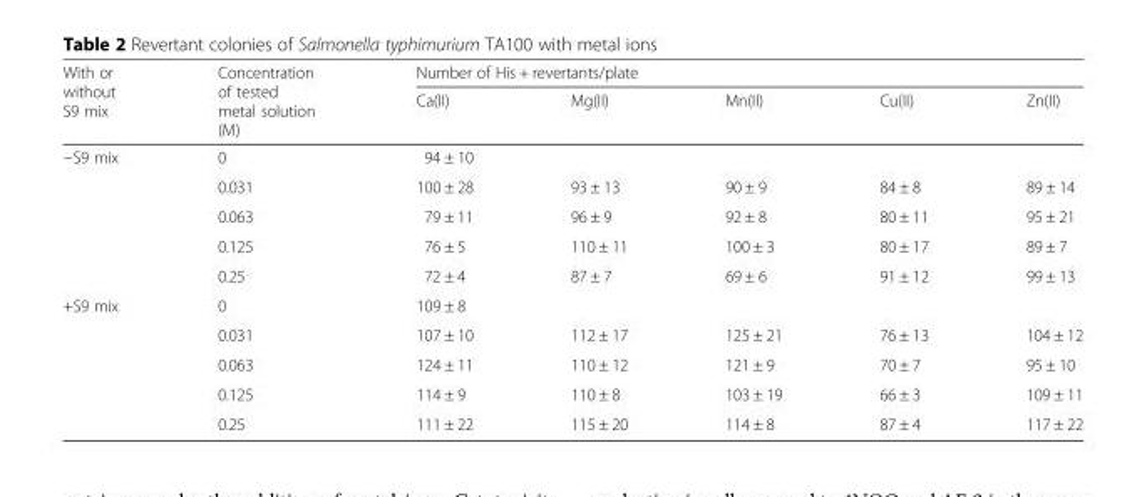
<table><thead><tr><td rowspan="2">With or without S9 mix</td><td rowspan="2">Concentration of tested metal solution (M)</td><td colspan="5">Number of His + revertants/plate</td></tr><tr><td>Ca(II)</td><td>Mg(II)</td><td>Mn(II)</td><td>Cu(II)</td><td>Zn(II)</td></tr></thead><tbody><tr><td rowspan="5">−S9 mix</td><td>0</td><td>94 ± 10</td><td></td><td></td><td></td><td></td></tr><tr><td>0.031</td><td>100 ± 28</td><td>93 ± 13</td><td>90 ± 9</td><td>84 ± 8</td><td>89 ± 14</td></tr><tr><td>0.063</td><td>79 ± 11</td><td>96 ± 9</td><td>92 ± 8</td><td>80 ± 11</td><td>95 ± 21</td></tr><tr><td>0.125</td><td>76 ± 5</td><td>110 ± 11</td><td>100 ± 3</td><td>80 ± 17</td><td>89 ± 7</td></tr><tr><td>0.25</td><td>72 ± 4</td><td>87 ± 7</td><td>69 ± 6</td><td>91 ± 12</td><td>99 ± 13</td></tr><tr><td rowspan="5">+S9 mix</td><td>0</td><td>109 ± 8</td><td></td><td></td><td></td><td></td></tr><tr><td>0.031</td><td>107 ± 10</td><td>112 ± 17</td><td>125 ± 21</td><td>76 ± 13</td><td>104 ± 12</td></tr><tr><td>0.063</td><td>124 ± 11</td><td>110 ± 12</td><td>121 ± 9</td><td>70 ± 7</td><td>95 ± 10</td></tr><tr><td>0.125</td><td>114 ± 9</td><td>110 ± 8</td><td>103 ± 19</td><td>66 ± 3</td><td>109 ± 11</td></tr><tr><td>0.25</td><td>111 ± 22</td><td>115 ± 20</td><td>114 ± 8</td><td>87 ± 4</td><td>117 ± 22</td></tr></tbody></table>